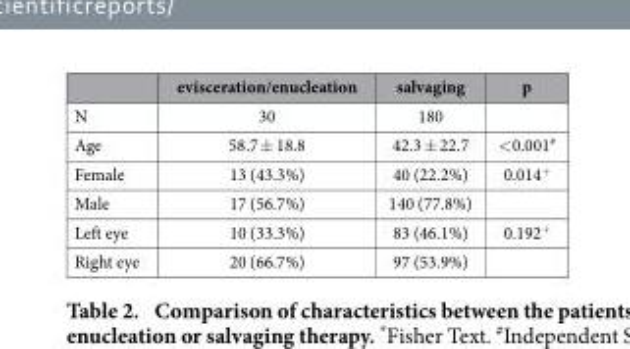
<table><thead><tr><td></td><td>evisceration/enucleation</td><td>salvaging</td><td>p</td></tr></thead><tbody><tr><td>N</td><td>30</td><td>180</td><td></td></tr><tr><td>Age</td><td>58.7 ± 18.8</td><td>42.3 ± 22.7</td><td>&lt; 0.001#</td></tr><tr><td>Female</td><td>13 (43.3%)</td><td>40 (22.2%)</td><td>0.014+</td></tr><tr><td>Male</td><td>17 (56.7%)</td><td>140 (77.8%)</td><td></td></tr><tr><td>Left eye</td><td>10 (33.3%)</td><td>83 (46.1%)</td><td>0.192+</td></tr><tr><td>Right eye</td><td>20 (66.7%)</td><td>97 (53.9%)</td><td></td></tr></tbody></table>